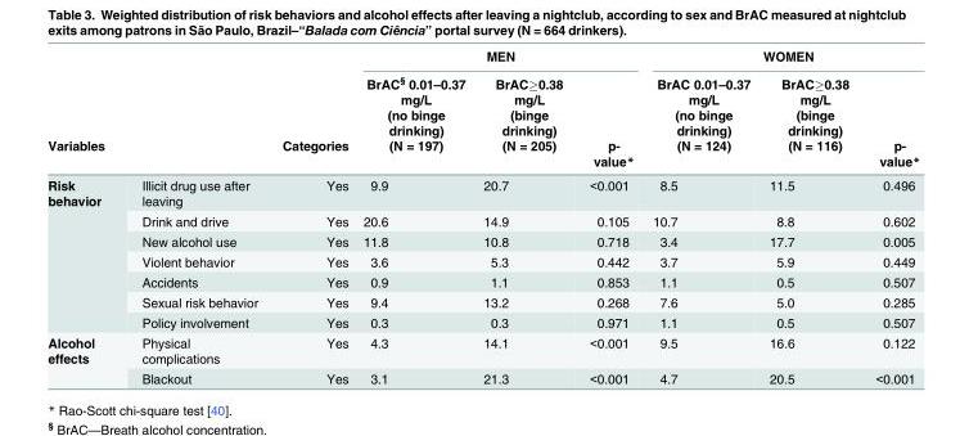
<table><thead><tr><td rowspan="4">Variables</td><td rowspan="4"></td><td rowspan="4">Categories</td><td colspan="3">MEN</td><td colspan="3">WOMEN</td></tr><tr><td rowspan="3">BrAC<sup>§</sup> 0.01–0.37 mg/L (no binge drinking) (N = 197)</td><td rowspan="3">BrAC≥0.38 mg/L (binge drinking) (N = 205)</td><td rowspan="3">p- value*</td><td rowspan="3">BrAC 0.01–0.37 mg/L (no binge drinking) (N = 124)</td><td rowspan="3">BrAC≥0.38 mg/L (binge drinking) (N = 116)</td><td rowspan="3">p- value*</td></tr><tr></tr><tr></tr></thead><tbody><tr><td rowspan="7">Risk behavior</td><td>Illicit drug use after leaving</td><td>Yes</td><td>9.9</td><td>20.7</td><td>&lt;0.001</td><td>8.5</td><td>11.5</td><td>0.496</td></tr><tr><td>Drink and drive</td><td>Yes</td><td>20.6</td><td>14.9</td><td>0.105</td><td>10.7</td><td>8.8</td><td>0.602</td></tr><tr><td>New alcohol use</td><td>Yes</td><td>11.8</td><td>10.8</td><td>0.718</td><td>3.4</td><td>17.7</td><td>0.005</td></tr><tr><td>Violent behavior</td><td>Yes</td><td>3.6</td><td>5.3</td><td>0.442</td><td>3.7</td><td>5.9</td><td>0.449</td></tr><tr><td>Accidents</td><td>Yes</td><td>0.9</td><td>1.1</td><td>0.853</td><td>1.1</td><td>0.5</td><td>0.507</td></tr><tr><td>Sexual risk behavior</td><td>Yes</td><td>9.4</td><td>13.2</td><td>0.268</td><td>7.6</td><td>5.0</td><td>0.285</td></tr><tr><td>Policy involvement</td><td>Yes</td><td>0.3</td><td>0.3</td><td>0.971</td><td>1.1</td><td>0.5</td><td>0.507</td></tr><tr><td rowspan="2">Alcohol effects</td><td>Physical complications</td><td>Yes</td><td>4.3</td><td>14.1</td><td>&lt;0.001</td><td>9.5</td><td>16.6</td><td>0.122</td></tr><tr><td>Blackout</td><td>Yes</td><td>3.1</td><td>21.3</td><td>&lt;0.001</td><td>4.7</td><td>20.5</td><td>&lt;0.001</td></tr></tbody></table>